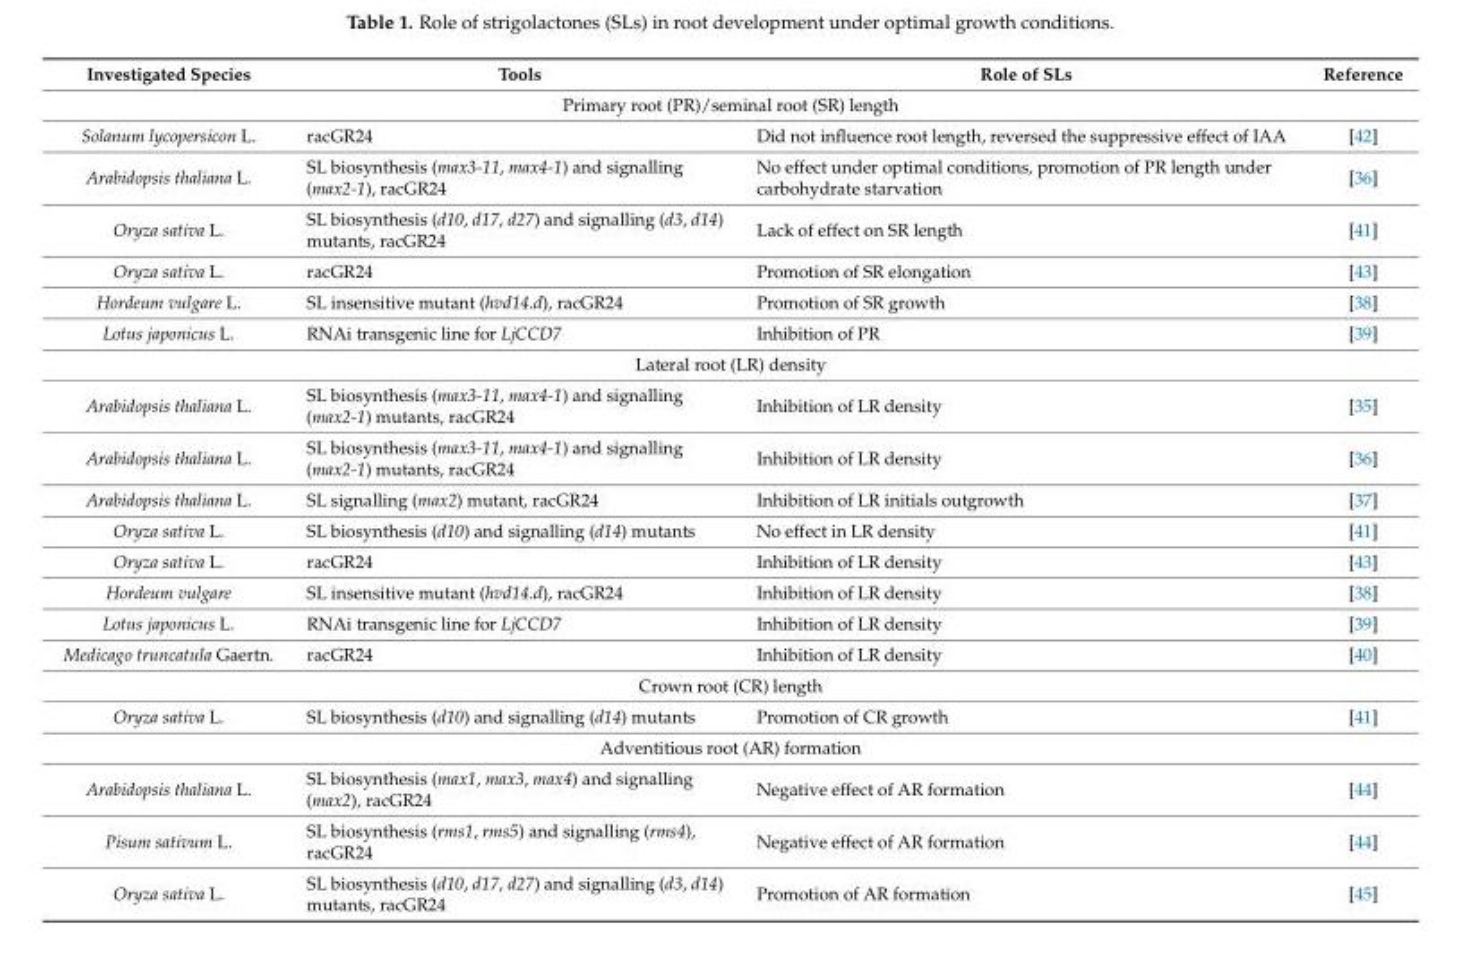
<table><thead><tr><td>Investigated Species</td><td>Tools</td><td>Role of SLs</td><td>Reference</td></tr></thead><tbody><tr><td colspan="4">Primary root (PR)/seminal root (SR) length</td></tr><tr><td>Solanum lycopersicon L.</td><td>racGR24</td><td>Did not influence root length, reversed the suppressive effect of IAA</td><td>[42]</td></tr><tr><td>Arabidopsis thaliana L.</td><td>SL biosynthesis (max3-11, max4-1) and signalling (max2-1), racGR24</td><td>No effect under optimal conditions, promotion of PR length under carbohydrate starvation</td><td>[36]</td></tr><tr><td>Oryza sativa L.</td><td>SL biosynthesis (d10, d17, d27) and signalling (d3, d14) mutants, racGR24</td><td>Lack of effect on SR length</td><td>[41]</td></tr><tr><td>Oryza sativa L.</td><td>racGR24</td><td>Promotion of SR elongation</td><td>[43]</td></tr><tr><td>Hordeum vulgare L.</td><td>SL insensitive mutant (hvd14.d), racGR24</td><td>Promotion of SR growth</td><td>[38]</td></tr><tr><td>Lotus japonicus L.</td><td>RNAi transgenic line for LjCCD7</td><td>Inhibition of PR</td><td>[39]</td></tr><tr><td colspan="4">Lateral root (LR) density</td></tr><tr><td>Arabidopsis thaliana L.</td><td>SL biosynthesis (max3-11, max4-1) and signalling (max2-1) mutants, racGR24</td><td>Inhibition of LR density</td><td>[35]</td></tr><tr><td>Arabidopsis thaliana L.</td><td>SL biosynthesis (max3-11, max4-1) and signalling (max2-1) mutants, racGR24</td><td>Inhibition of LR density</td><td>[36]</td></tr><tr><td>Arabidopsis thaliana L.</td><td>SL signalling (max2) mutant, racGR24</td><td>Inhibition of LR initials outgrowth</td><td>[37]</td></tr><tr><td>Oryza sativa L.</td><td>SL biosynthesis (d10) and signalling (d14) mutants</td><td>No effect in LR density</td><td>[41]</td></tr><tr><td>Oryza sativa L.</td><td>racGR24</td><td>Inhibition of LR density</td><td>[43]</td></tr><tr><td>Hordeum vulgare</td><td>SL insensitive mutant (hvd14.d), racGR24</td><td>Inhibition of LR density</td><td>[38]</td></tr><tr><td>Lotus japonicus L.</td><td>RNAi transgenic line for LjCCD7</td><td>Inhibition of LR density</td><td>[39]</td></tr><tr><td>Medicago truncatula Gaertn.</td><td>racGR24</td><td>Inhibition of LR density</td><td>[40]</td></tr><tr><td colspan="4">Crown root (CR) length</td></tr><tr><td>Oryza sativa L.</td><td>SL biosynthesis (d10) and signalling (d14) mutants</td><td>Promotion of CR growth</td><td>[41]</td></tr><tr><td colspan="4">Adventitious root (AR) formation</td></tr><tr><td>Arabidopsis thaliana L.</td><td>SL biosynthesis (max1, max3, max4) and signalling (max2), racGR24</td><td>Negative effect of AR formation</td><td>[44]</td></tr><tr><td>Pisum sativum L.</td><td>SL biosynthesis (rms1, rms5) and signalling (rms4), racGR24</td><td>Negative effect of AR formation</td><td>[44]</td></tr><tr><td>Oryza sativa L.</td><td>SL biosynthesis (d10, d17, d27) and signalling (d3, d14) mutants, racGR24</td><td>Promotion of AR formation</td><td>[45]</td></tr></tbody></table>